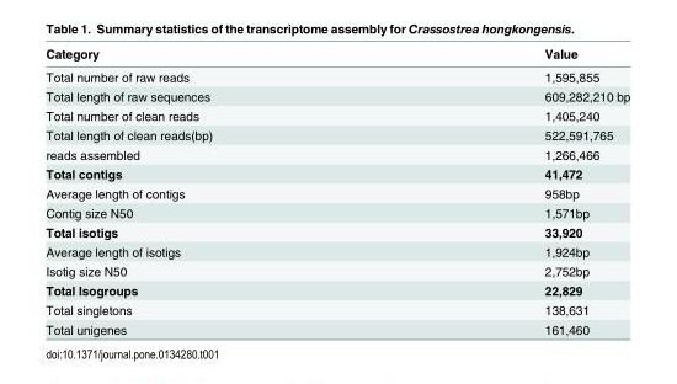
<table><thead><tr><td>Category</td><td>Value</td></tr></thead><tbody><tr><td>Total number of raw reads</td><td>1,595,855</td></tr><tr><td>Total length of raw sequences</td><td>609,282,210 bp</td></tr><tr><td>Total number of clean reads</td><td>1,405,240</td></tr><tr><td>Total length of clean reads(bp)</td><td>522,591,765</td></tr><tr><td>reads assembled</td><td>1,266,466</td></tr><tr><td>Total contigs</td><td>41,472</td></tr><tr><td>Average length of contigs</td><td>958bp</td></tr><tr><td>Contig size N50</td><td>1,571bp</td></tr><tr><td>Total isotigs</td><td>33,920</td></tr><tr><td>Average length of isotigs</td><td>1,924bp</td></tr><tr><td>Isotig size N50</td><td>2,752bp</td></tr><tr><td>Total Isogroups</td><td>22,829</td></tr><tr><td>Total singletons</td><td>138,631</td></tr><tr><td>Total unigenes</td><td>161,460</td></tr></tbody></table>